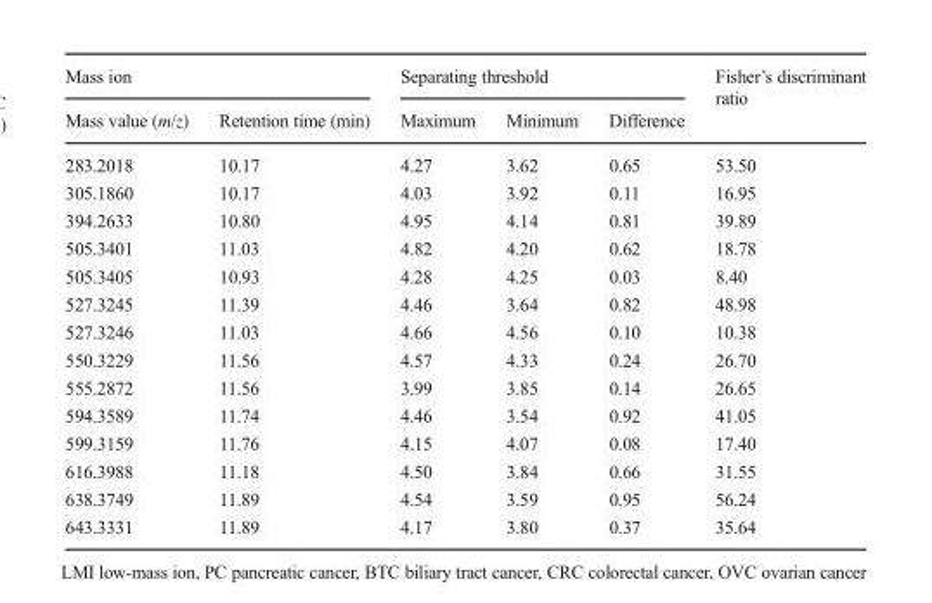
<table><thead><tr><td colspan="2">Mass ion</td><td colspan="3">Separating threshold</td><td rowspan="2">Fisher’s discriminant ratio</td></tr><tr><td>Mass value (m/z)</td><td>Retention time (min)</td><td>Maximum</td><td>Minimum</td><td>Difference</td></tr></thead><tbody><tr><td>283.2018</td><td>10.17</td><td>4.27</td><td>3.62</td><td>0.65</td><td>53.50</td></tr><tr><td>305.1860</td><td>10.17</td><td>4.03</td><td>3.92</td><td>0.11</td><td>16.95</td></tr><tr><td>394.2633</td><td>10.80</td><td>4.95</td><td>4.14</td><td>0.81</td><td>39.89</td></tr><tr><td>505.3401</td><td>11.03</td><td>4.82</td><td>4.20</td><td>0.62</td><td>18.78</td></tr><tr><td>505.3405</td><td>10.93</td><td>4.28</td><td>4.25</td><td>0.03</td><td>8.40</td></tr><tr><td>527.3245</td><td>11.39</td><td>4.46</td><td>3.64</td><td>0.82</td><td>48.98</td></tr><tr><td>527.3246</td><td>11.03</td><td>4.66</td><td>4.56</td><td>0.10</td><td>10.38</td></tr><tr><td>550.3229</td><td>11.56</td><td>4.57</td><td>4.33</td><td>0.24</td><td>26.70</td></tr><tr><td>555.2872</td><td>11.56</td><td>3.99</td><td>3.85</td><td>0.14</td><td>26.65</td></tr><tr><td>594.3589</td><td>11.74</td><td>4.46</td><td>3.54</td><td>0.92</td><td>41.05</td></tr><tr><td>599.3159</td><td>11.76</td><td>4.15</td><td>4.07</td><td>0.08</td><td>17.40</td></tr><tr><td>616.3988</td><td>11.18</td><td>4.50</td><td>3.84</td><td>0.66</td><td>31.55</td></tr><tr><td>638.3749</td><td>11.89</td><td>4.54</td><td>3.59</td><td>0.95</td><td>56.24</td></tr><tr><td>643.3331</td><td>11.89</td><td>4.17</td><td>3.80</td><td>0.37</td><td>35.64</td></tr></tbody></table>